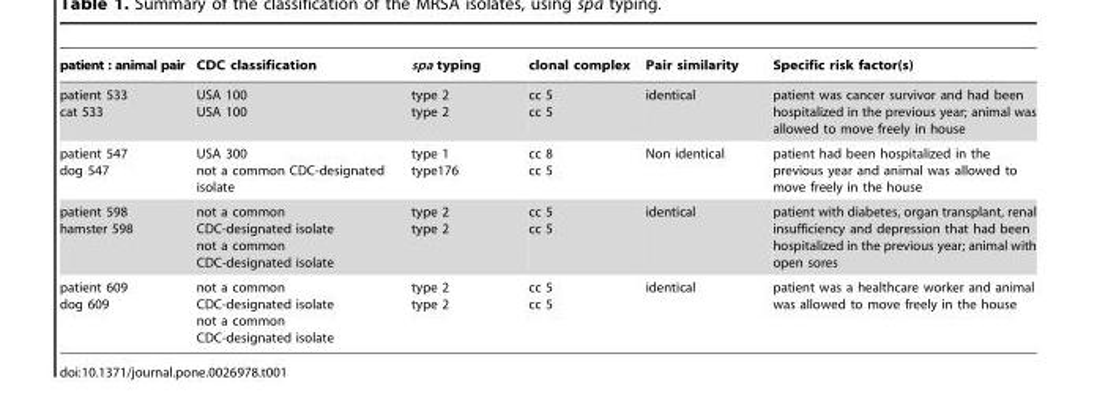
<table><thead><tr><td>patient : animal pair</td><td>CDC classification</td><td>spa typing</td><td>clonal complex</td><td>Pair similarity</td><td>Specific risk factor(s)</td></tr></thead><tbody><tr><td>patient 533 cat 533</td><td>USA 100 USA 100</td><td>type 2 type 2</td><td>cc 5 cc 5</td><td>identical</td><td>patient was cancer survivor and had been hospitalized in the previous year; animal was allowed to move freely in house</td></tr><tr><td>patient 547 dog 547</td><td>USA 300 not a common CDC-designated isolate</td><td>type 1 type176</td><td>cc 8 cc 5</td><td>Non identical</td><td>patient had been hospitalized in the previous year and animal was allowed to move freely in the house</td></tr><tr><td>patient 598 hamster 598</td><td>not a common CDC-designated isolate not a common CDC-designated isolate</td><td>type 2 type 2</td><td>cc 5 cc 5</td><td>identical</td><td>patient with diabetes, organ transplant, renal insufficiency and depression that had been hospitalized in the previous year; animal with open sores</td></tr><tr><td>patient 609 dog 609</td><td>not a common CDC-designated isolate not a common CDC-designated isolate</td><td>type 2 type 2</td><td>cc 5 cc 5</td><td>identical</td><td>patient was a healthcare worker and animal was allowed to move freely in the house</td></tr></tbody></table>